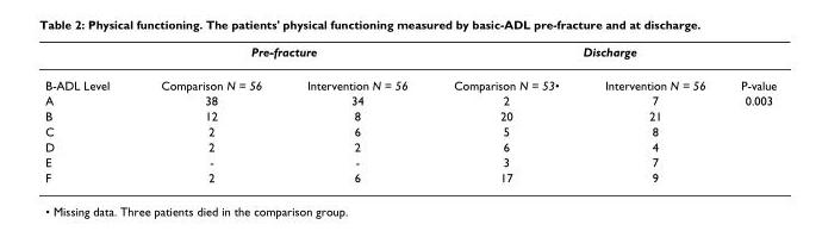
<table><thead><tr><td rowspan="2">B-ADL Level</td><td colspan="2">Pre-fracture</td><td colspan="3">Discharge</td></tr><tr><td>Comparison N = 56</td><td>Intervention N = 56</td><td>Comparison N = 53•</td><td>Intervention N = 56</td><td>P-value</td></tr></thead><tbody><tr><td>A</td><td>38</td><td>34</td><td>2</td><td>7</td><td>0.003</td></tr><tr><td>B</td><td>12</td><td>8</td><td>20</td><td>21</td><td></td></tr><tr><td>C</td><td>2</td><td>6</td><td>5</td><td>8</td><td></td></tr><tr><td>D</td><td>2</td><td>2</td><td>6</td><td>4</td><td></td></tr><tr><td>E</td><td>-</td><td>-</td><td>3</td><td>7</td><td></td></tr><tr><td>F</td><td>2</td><td>6</td><td>17</td><td>9</td><td></td></tr></tbody></table>